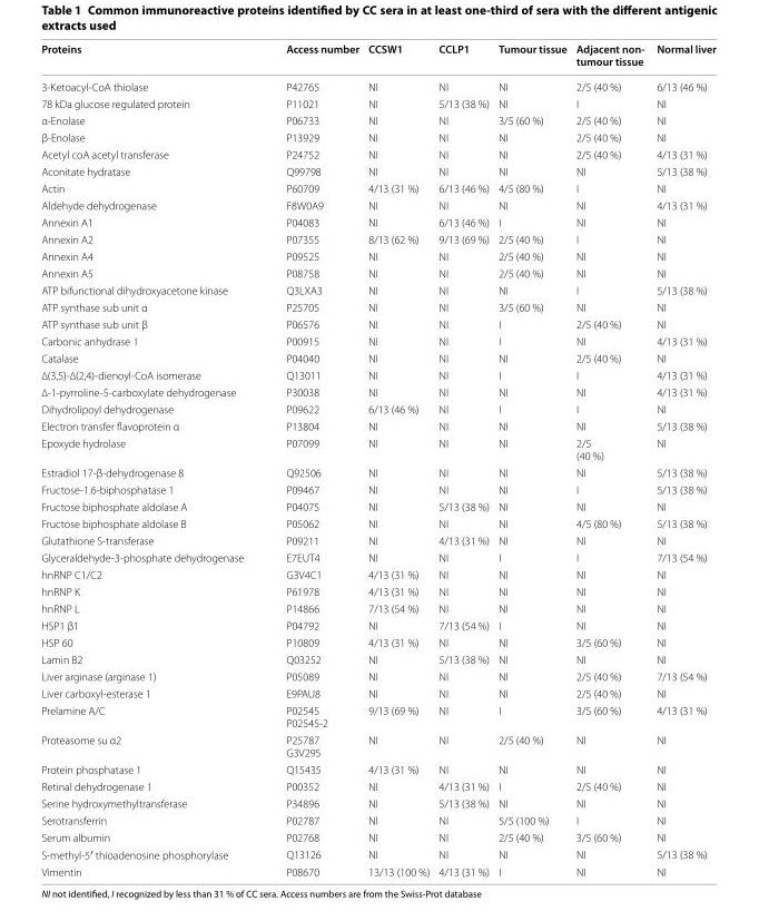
<table><thead><tr><td>Proteins</td><td>Access number</td><td>CCSW1</td><td>CCLP1</td><td>Tumour tissue</td><td>Adjacent non‑ tumour tissue</td><td>Normal liver</td></tr></thead><tbody><tr><td>3‑Ketoacyl‑CoA thiolase</td><td>P42765</td><td>NI</td><td>NI</td><td>NI</td><td>2/5 (40 %)</td><td>6/13 (46 %)</td></tr><tr><td>78 kDa glucose regulated protein</td><td>P11021</td><td>NI</td><td>5/13 (38 %)</td><td>NI</td><td>I</td><td>NI</td></tr><tr><td>α‑Enolase</td><td>P06733</td><td>NI</td><td>NI</td><td>3/5 (60 %)</td><td>2/5 (40 %)</td><td>NI</td></tr><tr><td>β‑Enolase</td><td>P13929</td><td>NI</td><td>NI</td><td>NI</td><td>2/5 (40 %)</td><td>NI</td></tr><tr><td>Acetyl coA acetyl transferase</td><td>P24752</td><td>NI</td><td>NI</td><td>NI</td><td>2/5 (40 %)</td><td>4/13 (31 %)</td></tr><tr><td>Aconitate hydratase</td><td>Q99798</td><td>NI</td><td>NI</td><td>NI</td><td>NI</td><td>5/13 (38 %)</td></tr><tr><td>Actin</td><td>P60709</td><td>4/13 (31 %)</td><td>6/13 (46 %)</td><td>4/5 (80 %)</td><td>I</td><td>NI</td></tr><tr><td>Aldehyde dehydrogenase</td><td>F8W0A9</td><td>NI</td><td>NI</td><td>NI</td><td>NI</td><td>4/13 (31 %)</td></tr><tr><td>Annexin A1</td><td>P04083</td><td>NI</td><td>6/13 (46 %)</td><td>I</td><td>NI</td><td>NI</td></tr><tr><td>Annexin A2</td><td>P07355</td><td>8/13 (62 %)</td><td>9/13 (69 %)</td><td>2/5 (40 %)</td><td>I</td><td>NI</td></tr><tr><td>Annexin A4</td><td>P09525</td><td>NI</td><td>NI</td><td>2/5 (40 %)</td><td>NI</td><td>NI</td></tr><tr><td>Annexin A5</td><td>P08758</td><td>NI</td><td>NI</td><td>2/5 (40 %)</td><td>NI</td><td>NI</td></tr><tr><td>ATP bifunctional dihydroxyacetone kinase</td><td>Q3LXA3</td><td>NI</td><td>NI</td><td>NI</td><td>I</td><td>5/13 (38 %)</td></tr><tr><td>ATP synthase sub unit α</td><td>P25705</td><td>NI</td><td>NI</td><td>3/5 (60 %)</td><td>NI</td><td>NI</td></tr><tr><td>ATP synthase sub unit β</td><td>P06576</td><td>NI</td><td>NI</td><td>I</td><td>2/5 (40 %)</td><td>NI</td></tr><tr><td>Carbonic anhydrase 1</td><td>P00915</td><td>NI</td><td>NI</td><td>I</td><td>NI</td><td>4/13 (31 %)</td></tr><tr><td>Catalase</td><td>P04040</td><td>NI</td><td>NI</td><td>NI</td><td>2/5 (40 %)</td><td>NI</td></tr><tr><td>∆(3,5)‑∆(2,4)‑dienoyl‑CoA isomerase</td><td>Q13011</td><td>NI</td><td>NI</td><td>I</td><td>I</td><td>4/13 (31 %)</td></tr><tr><td>∆‑1‑pyrroline‑5‑carboxylate dehydrogenase</td><td>P30038</td><td>NI</td><td>NI</td><td>NI</td><td>NI</td><td>4/13 (31 %)</td></tr><tr><td>Dihydrolipoyl dehydrogenase</td><td>P09622</td><td>6/13 (46 %)</td><td>NI</td><td>I</td><td>I</td><td>NI</td></tr><tr><td>Electron transfer flavoprotein α</td><td>P13804</td><td>NI</td><td>NI</td><td>NI</td><td>NI</td><td>5/13 (38 %)</td></tr><tr><td>Epoxyde hydrolase</td><td>P07099</td><td>NI</td><td>NI</td><td>NI</td><td>2/5 (40 %)</td><td>NI</td></tr><tr><td>Estradiol 17‑β‑dehydrogenase 8</td><td>Q92506</td><td>NI</td><td>NI</td><td>NI</td><td>NI</td><td>5/13 (38 %)</td></tr><tr><td>Fructose‑1.6‑biphosphatase 1</td><td>P09467</td><td>NI</td><td>NI</td><td>NI</td><td>I</td><td>5/13 (38 %)</td></tr><tr><td>Fructose biphosphate aldolase A</td><td>P04075</td><td>NI</td><td>5/13 (38 %)</td><td>NI</td><td>NI</td><td>NI</td></tr><tr><td>Fructose biphosphate aldolase B</td><td>P05062</td><td>NI</td><td>NI</td><td>NI</td><td>4/5 (80 %)</td><td>5/13 (38 %)</td></tr><tr><td>Glutathione S‑transferase</td><td>P09211</td><td>NI</td><td>4/13 (31 %)</td><td>NI</td><td>NI</td><td>NI</td></tr><tr><td>Glyceraldehyde‑3‑phosphate dehydrogenase</td><td>E7EUT4</td><td>NI</td><td>NI</td><td>I</td><td>I</td><td>7/13 (54 %)</td></tr><tr><td>hnRNP C1/C2</td><td>G3V4C1</td><td>4/13 (31 %)</td><td>NI</td><td>NI</td><td>NI</td><td>NI</td></tr><tr><td>hnRNP K</td><td>P61978</td><td>4/13 (31 %)</td><td>NI</td><td>NI</td><td>NI</td><td>NI</td></tr><tr><td>hnRNP L</td><td>P14866</td><td>7/13 (54 %)</td><td>NI</td><td>NI</td><td>NI</td><td>NI</td></tr><tr><td>HSP1 β1</td><td>P04792</td><td>NI</td><td>7/13 (54 %)</td><td>I</td><td>NI</td><td>NI</td></tr><tr><td>HSP 60</td><td>P10809</td><td>4/13 (31 %)</td><td>NI</td><td>NI</td><td>3/5 (60 %)</td><td>NI</td></tr><tr><td>Lamin B2</td><td>Q03252</td><td>NI</td><td>5/13 (38 %)</td><td>NI</td><td>NI</td><td>NI</td></tr><tr><td>Liver arginase (arginase 1)</td><td>P05089</td><td>NI</td><td>NI</td><td>NI</td><td>2/5 (40 %)</td><td>7/13 (54 %)</td></tr><tr><td>Liver carboxyl‑esterase 1</td><td>E9PAU8</td><td>NI</td><td>NI</td><td>NI</td><td>2/5 (40 %)</td><td>NI</td></tr><tr><td>Prelamine A/C</td><td>P02545 P02545‑2</td><td>9/13 (69 %)</td><td>NI</td><td>I</td><td>3/5 (60 %)</td><td>4/13 (31 %)</td></tr><tr><td>Proteasome su α2</td><td>P25787 G3V295</td><td>NI</td><td>NI</td><td>2/5 (40 %)</td><td>NI</td><td>NI</td></tr><tr><td>Protein phosphatase 1</td><td>Q15435</td><td>4/13 (31 %)</td><td>NI</td><td>NI</td><td>NI</td><td>NI</td></tr><tr><td>Retinal dehydrogenase 1</td><td>P00352</td><td>NI</td><td>4/13 (31 %)</td><td>I</td><td>2/5 (40 %)</td><td>NI</td></tr><tr><td>Serine hydroxymethyltransferase</td><td>P34896</td><td>NI</td><td>5/13 (38 %)</td><td>NI</td><td>NI</td><td>NI</td></tr><tr><td>Serotransferrin</td><td>P02787</td><td>NI</td><td>NI</td><td>5/5 (100 %)</td><td>I</td><td>NI</td></tr><tr><td>Serum albumin</td><td>P02768</td><td>NI</td><td>NI</td><td>2/5 (40 %)</td><td>3/5 (60 %)</td><td>NI</td></tr><tr><td>S‑methyl‑5′ thioadenosine phosphorylase</td><td>Q13126</td><td>NI</td><td>NI</td><td>NI</td><td>NI</td><td>5/13 (38 %)</td></tr><tr><td>Vimentin</td><td>P08670</td><td>13/13 (100 %)</td><td>4/13 (31 %)</td><td>I</td><td>NI</td><td>NI</td></tr></tbody></table>